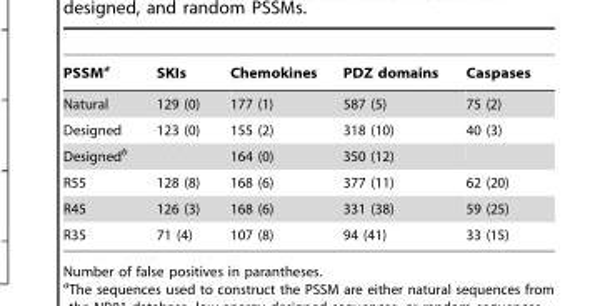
<table><thead><tr><td>PSSM<sup>a</sup></td><td>SKIs</td><td>Chemokines</td><td>PDZ domains</td><td>Caspases</td></tr></thead><tbody><tr><td>Natural</td><td>129 (0)</td><td>177 (1)</td><td>587 (5)</td><td>75 (2)</td></tr><tr><td>Designed</td><td>123 (0)</td><td>155 (2)</td><td>318 (10)</td><td>40 (3)</td></tr><tr><td>Designed<sup>b</sup></td><td></td><td>164 (0)</td><td>350 (12)</td><td></td></tr><tr><td>R55</td><td>128 (8)</td><td>168 (6)</td><td>377 (11)</td><td>62 (20)</td></tr><tr><td>R45</td><td>126 (3)</td><td>168 (6)</td><td>331 (38)</td><td>59 (25)</td></tr><tr><td>R35</td><td>71 (4)</td><td>107 (8)</td><td>94 (41)</td><td>33 (15)</td></tr></tbody></table>